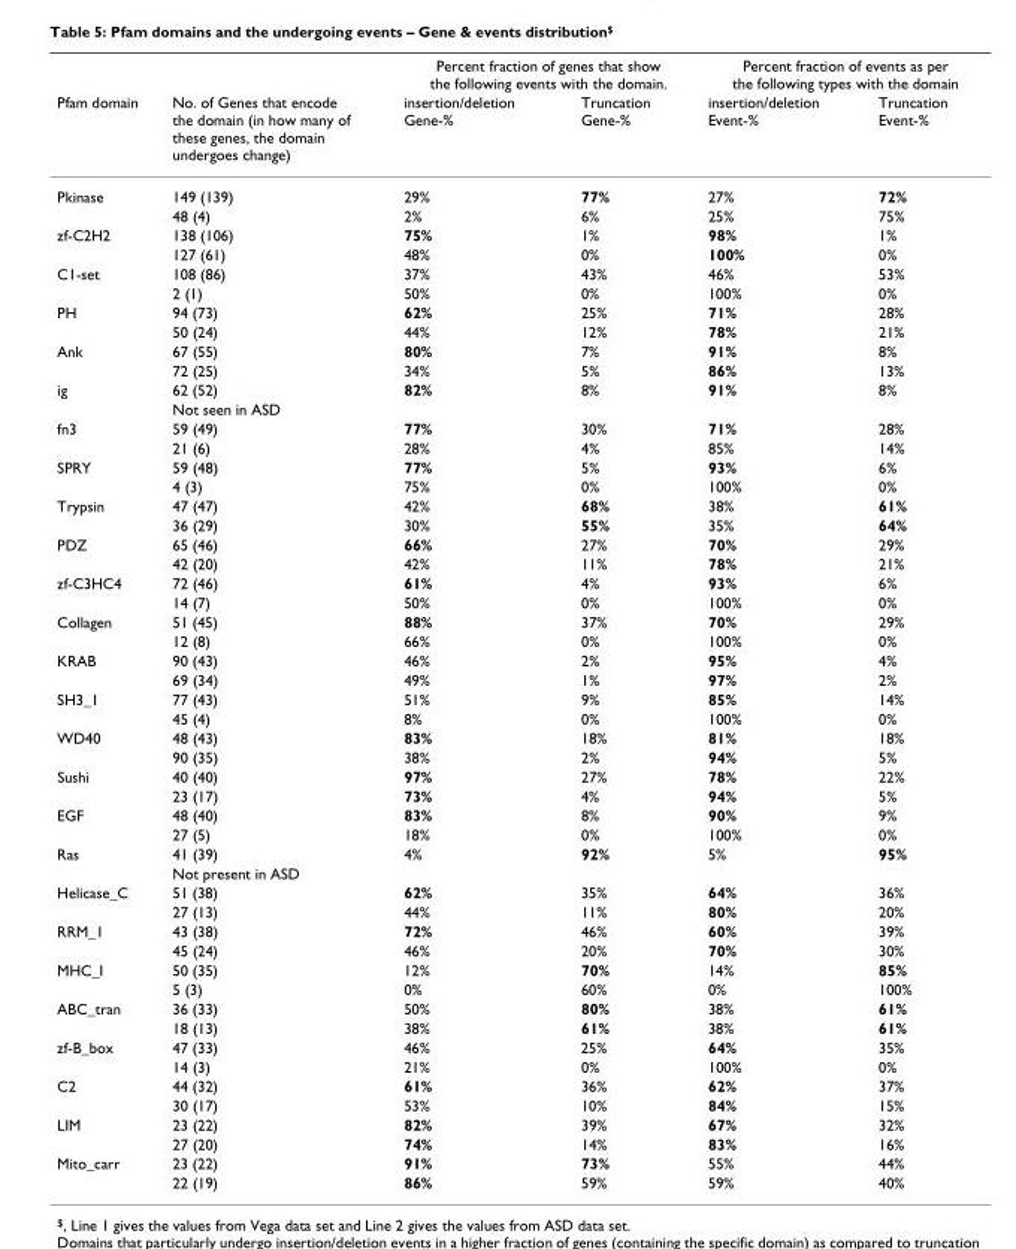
<table><thead><tr><td rowspan="2">Pfam domain</td><td rowspan="2">No. of Genes that encode the domain (in how many of these genes, the domain undergoes change)</td><td colspan="2">Percent fraction of genes that show the following events with the domain.</td><td colspan="2">Percent fraction of events as per the following types with the domain</td></tr><tr><td>insertion/deletion Gene-%</td><td>Truncation Gene-%</td><td>insertion/deletion Event-%</td><td>Truncation Event-%</td></tr></thead><tbody><tr><td rowspan="2">Pkinase</td><td>149 (139)</td><td>29%</td><td>77%</td><td>27%</td><td>72%</td></tr><tr><td>48 (4)</td><td>2%</td><td>6%</td><td>25%</td><td>75%</td></tr><tr><td rowspan="2">zf-C2H2</td><td>138 (106)</td><td>75%</td><td>1%</td><td>98%</td><td>1%</td></tr><tr><td>127 (61)</td><td>48%</td><td>0%</td><td>100%</td><td>0%</td></tr><tr><td rowspan="2">C1-set</td><td>108 (86)</td><td>37%</td><td>43%</td><td>46%</td><td>53%</td></tr><tr><td>2 (1)</td><td>50%</td><td>0%</td><td>100%</td><td>0%</td></tr><tr><td rowspan="2">PH</td><td>94 (73)</td><td>62%</td><td>25%</td><td>71%</td><td>28%</td></tr><tr><td>50 (24)</td><td>44%</td><td>12%</td><td>78%</td><td>21%</td></tr><tr><td rowspan="2">Ank</td><td>67 (55)</td><td>80%</td><td>7%</td><td>91%</td><td>8%</td></tr><tr><td>72 (25)</td><td>34%</td><td>5%</td><td>86%</td><td>13%</td></tr><tr><td rowspan="2">ig</td><td>62 (52)</td><td>82%</td><td>8%</td><td>91%</td><td>8%</td></tr><tr><td>Not seen in ASD</td><td></td><td></td><td></td><td></td></tr><tr><td rowspan="2">fn3</td><td>59 (49)</td><td>77%</td><td>30%</td><td>71%</td><td>28%</td></tr><tr><td>21 (6)</td><td>28%</td><td>4%</td><td>85%</td><td>14%</td></tr><tr><td rowspan="2">SPRY</td><td>59 (48)</td><td>77%</td><td>5%</td><td>93%</td><td>6%</td></tr><tr><td>4 (3)</td><td>75%</td><td>0%</td><td>100%</td><td>0%</td></tr><tr><td rowspan="2">Trypsin</td><td>47 (47)</td><td>42%</td><td>68%</td><td>38%</td><td>61%</td></tr><tr><td>36 (29)</td><td>30%</td><td>55%</td><td>35%</td><td>64%</td></tr><tr><td rowspan="2">PDZ</td><td>65 (46)</td><td>66%</td><td>27%</td><td>70%</td><td>29%</td></tr><tr><td>42 (20)</td><td>42%</td><td>11%</td><td>78%</td><td>21%</td></tr><tr><td rowspan="2">zf-C3HC4</td><td>72 (46)</td><td>61%</td><td>4%</td><td>93%</td><td>6%</td></tr><tr><td>14 (7)</td><td>50%</td><td>0%</td><td>100%</td><td>0%</td></tr><tr><td rowspan="2">Collagen</td><td>51 (45)</td><td>88%</td><td>37%</td><td>70%</td><td>29%</td></tr><tr><td>12 (8)</td><td>66%</td><td>0%</td><td>100%</td><td>0%</td></tr><tr><td rowspan="2">KRAB</td><td>90 (43)</td><td>46%</td><td>2%</td><td>95%</td><td>4%</td></tr><tr><td>69 (34)</td><td>49%</td><td>1%</td><td>97%</td><td>2%</td></tr><tr><td rowspan="2">SH3_1</td><td>77 (43)</td><td>51%</td><td>9%</td><td>85%</td><td>14%</td></tr><tr><td>45 (4)</td><td>8%</td><td>0%</td><td>100%</td><td>0%</td></tr><tr><td rowspan="2">WD40</td><td>48 (43)</td><td>83%</td><td>18%</td><td>81%</td><td>18%</td></tr><tr><td>90 (35)</td><td>38%</td><td>2%</td><td>94%</td><td>5%</td></tr><tr><td rowspan="2">Sushi</td><td>40 (40)</td><td>97%</td><td>27%</td><td>78%</td><td>22%</td></tr><tr><td>23 (17)</td><td>73%</td><td>4%</td><td>94%</td><td>5%</td></tr><tr><td rowspan="2">EGF</td><td>48 (40)</td><td>83%</td><td>8%</td><td>90%</td><td>9%</td></tr><tr><td>27 (5)</td><td>18%</td><td>0%</td><td>100%</td><td>0%</td></tr><tr><td rowspan="2">Ras</td><td>41 (39)</td><td>4%</td><td>92%</td><td>5%</td><td>95%</td></tr><tr><td>Not present in ASD</td><td></td><td></td><td></td><td></td></tr><tr><td rowspan="2">Helicase_C</td><td>51 (38)</td><td>62%</td><td>35%</td><td>64%</td><td>36%</td></tr><tr><td>27 (13)</td><td>44%</td><td>11%</td><td>80%</td><td>20%</td></tr><tr><td rowspan="2">RRM_1</td><td>43 (38)</td><td>72%</td><td>46%</td><td>60%</td><td>39%</td></tr><tr><td>45 (24)</td><td>46%</td><td>20%</td><td>70%</td><td>30%</td></tr><tr><td rowspan="2">MHC_I</td><td>50 (35)</td><td>12%</td><td>70%</td><td>14%</td><td>85%</td></tr><tr><td>5 (3)</td><td>0%</td><td>60%</td><td>0%</td><td>100%</td></tr><tr><td rowspan="2">ABC_tran</td><td>36 (33)</td><td>50%</td><td>80%</td><td>38%</td><td>61%</td></tr><tr><td>18 (13)</td><td>38%</td><td>61%</td><td>38%</td><td>61%</td></tr><tr><td rowspan="2">zf-B_box</td><td>47 (33)</td><td>46%</td><td>25%</td><td>64%</td><td>35%</td></tr><tr><td>14 (3)</td><td>21%</td><td>0%</td><td>100%</td><td>0%</td></tr><tr><td rowspan="2">C2</td><td>44 (32)</td><td>61%</td><td>36%</td><td>62%</td><td>37%</td></tr><tr><td>30 (17)</td><td>53%</td><td>10%</td><td>84%</td><td>15%</td></tr><tr><td rowspan="2">LIM</td><td>23 (22)</td><td>82%</td><td>39%</td><td>67%</td><td>32%</td></tr><tr><td>27 (20)</td><td>74%</td><td>14%</td><td>83%</td><td>16%</td></tr><tr><td rowspan="2">Mito_carr</td><td>23 (22)</td><td>91%</td><td>73%</td><td>55%</td><td>44%</td></tr><tr><td>22 (19)</td><td>86%</td><td>59%</td><td>59%</td><td>40%</td></tr></tbody></table>